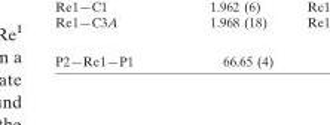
<table><tbody><tr><td>P2—Re1—P1</td><td>66.65 (4)</td></tr></tbody></table>